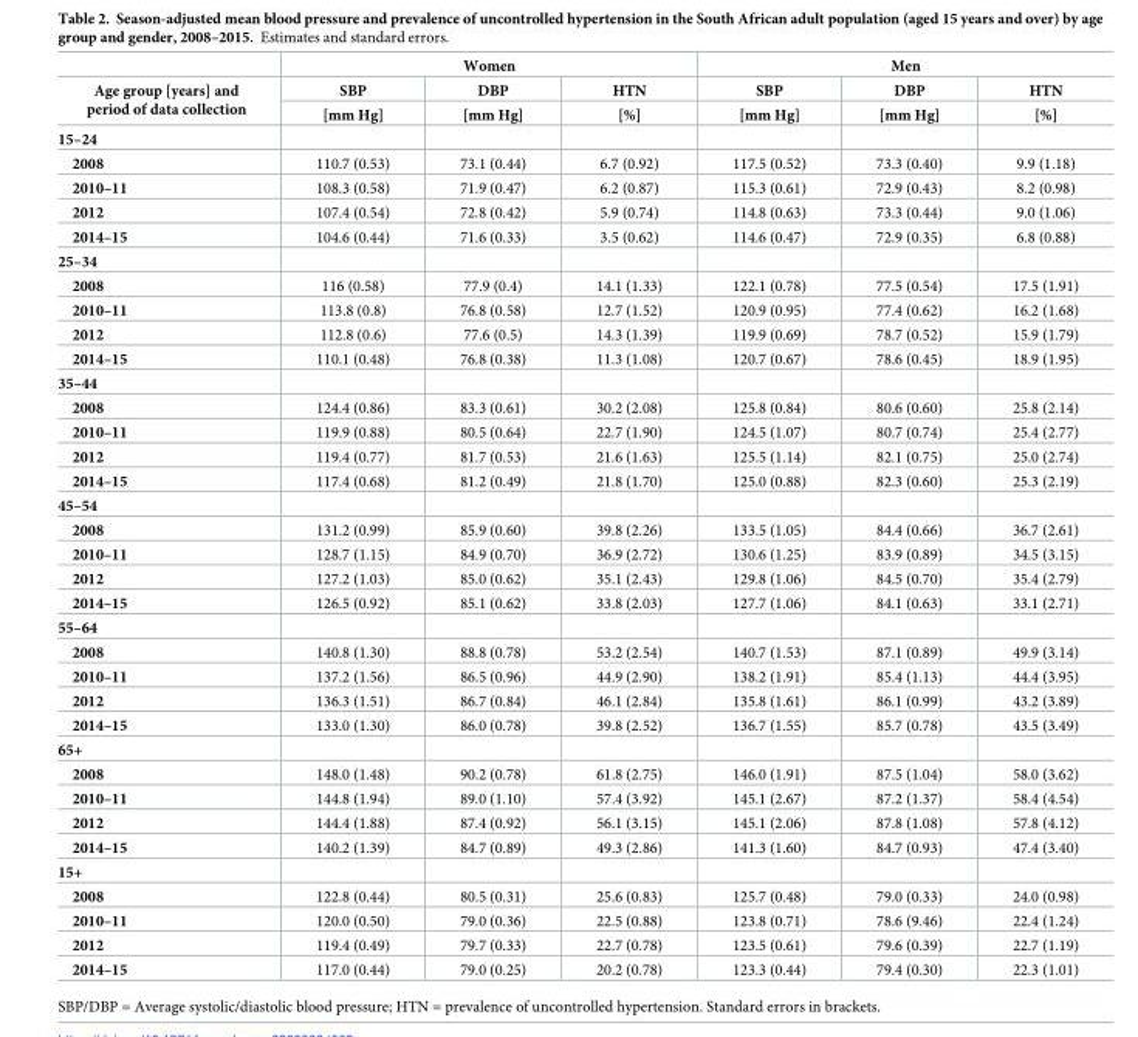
<table><thead><tr><td rowspan="3">Age group [years] and period of data collection</td><td colspan="3">Women</td><td colspan="3">Men</td></tr><tr><td rowspan="2">SBP [mm Hg]</td><td rowspan="2">DBP [mm Hg]</td><td rowspan="2">HTN [%]</td><td rowspan="2">SBP [mm Hg]</td><td rowspan="2">DBP [mm Hg]</td><td rowspan="2">HTN [%]</td></tr><tr></tr></thead><tbody><tr><td colspan="7">15–24</td></tr><tr><td>2008</td><td>110.7 (0.53)</td><td>73.1 (0.44)</td><td>6.7 (0.92)</td><td>117.5 (0.52)</td><td>73.3 (0.40)</td><td>9.9 (1.18)</td></tr><tr><td>2010–11</td><td>108.3 (0.58)</td><td>71.9 (0.47)</td><td>6.2 (0.87)</td><td>115.3 (0.61)</td><td>72.9 (0.43)</td><td>8.2 (0.98)</td></tr><tr><td>2012</td><td>107.4 (0.54)</td><td>72.8 (0.42)</td><td>5.9 (0.74)</td><td>114.8 (0.63)</td><td>73.3 (0.44)</td><td>9.0 (1.06)</td></tr><tr><td>2014–15</td><td>104.6 (0.44)</td><td>71.6 (0.33)</td><td>3.5 (0.62)</td><td>114.6 (0.47)</td><td>72.9 (0.35)</td><td>6.8 (0.88)</td></tr><tr><td colspan="7">25–34</td></tr><tr><td>2008</td><td>116 (0.58)</td><td>77.9 (0.4)</td><td>14.1 (1.33)</td><td>122.1 (0.78)</td><td>77.5 (0.54)</td><td>17.5 (1.91)</td></tr><tr><td>2010–11</td><td>113.8 (0.8)</td><td>76.8 (0.58)</td><td>12.7 (1.52)</td><td>120.9 (0.95)</td><td>77.4 (0.62)</td><td>16.2 (1.68)</td></tr><tr><td>2012</td><td>112.8 (0.6)</td><td>77.6 (0.5)</td><td>14.3 (1.39)</td><td>119.9 (0.69)</td><td>78.7 (0.52)</td><td>15.9 (1.79)</td></tr><tr><td>2014–15</td><td>110.1 (0.48)</td><td>76.8 (0.38)</td><td>11.3 (1.08)</td><td>120.7 (0.67)</td><td>78.6 (0.45)</td><td>18.9 (1.95)</td></tr><tr><td colspan="7">35–44</td></tr><tr><td>2008</td><td>124.4 (0.86)</td><td>83.3 (0.61)</td><td>30.2 (2.08)</td><td>125.8 (0.84)</td><td>80.6 (0.60)</td><td>25.8 (2.14)</td></tr><tr><td>2010–11</td><td>119.9 (0.88)</td><td>80.5 (0.64)</td><td>22.7 (1.90)</td><td>124.5 (1.07)</td><td>80.7 (0.74)</td><td>25.4 (2.77)</td></tr><tr><td>2012</td><td>119.4 (0.77)</td><td>81.7 (0.53)</td><td>21.6 (1.63)</td><td>125.5 (1.14)</td><td>82.1 (0.75)</td><td>25.0 (2.74)</td></tr><tr><td>2014–15</td><td>117.4 (0.68)</td><td>81.2 (0.49)</td><td>21.8 (1.70)</td><td>125.0 (0.88)</td><td>82.3 (0.60)</td><td>25.3 (2.19)</td></tr><tr><td colspan="7">45–54</td></tr><tr><td>2008</td><td>131.2 (0.99)</td><td>85.9 (0.60)</td><td>39.8 (2.26)</td><td>133.5 (1.05)</td><td>84.4 (0.66)</td><td>36.7 (2.61)</td></tr><tr><td>2010–11</td><td>128.7 (1.15)</td><td>84.9 (0.70)</td><td>36.9 (2.72)</td><td>130.6 (1.25)</td><td>83.9 (0.89)</td><td>34.5 (3.15)</td></tr><tr><td>2012</td><td>127.2 (1.03)</td><td>85.0 (0.62)</td><td>35.1 (2.43)</td><td>129.8 (1.06)</td><td>84.5 (0.70)</td><td>35.4 (2.79)</td></tr><tr><td>2014–15</td><td>126.5 (0.92)</td><td>85.1 (0.62)</td><td>33.8 (2.03)</td><td>127.7 (1.06)</td><td>84.1 (0.63)</td><td>33.1 (2.71)</td></tr><tr><td colspan="7">55–64</td></tr><tr><td>2008</td><td>140.8 (1.30)</td><td>88.8 (0.78)</td><td>53.2 (2.54)</td><td>140.7 (1.53)</td><td>87.1 (0.89)</td><td>49.9 (3.14)</td></tr><tr><td>2010–11</td><td>137.2 (1.56)</td><td>86.5 (0.96)</td><td>44.9 (2.90)</td><td>138.2 (1.91)</td><td>85.4 (1.13)</td><td>44.4 (3.95)</td></tr><tr><td>2012</td><td>136.3 (1.51)</td><td>86.7 (0.84)</td><td>46.1 (2.84)</td><td>135.8 (1.61)</td><td>86.1 (0.99)</td><td>43.2 (3.89)</td></tr><tr><td>2014–15</td><td>133.0 (1.30)</td><td>86.0 (0.78)</td><td>39.8 (2.52)</td><td>136.7 (1.55)</td><td>85.7 (0.78)</td><td>43.5 (3.49)</td></tr><tr><td colspan="7">65+</td></tr><tr><td>2008</td><td>148.0 (1.48)</td><td>90.2 (0.78)</td><td>61.8 (2.75)</td><td>146.0 (1.91)</td><td>87.5 (1.04)</td><td>58.0 (3.62)</td></tr><tr><td>2010–11</td><td>144.8 (1.94)</td><td>89.0 (1.10)</td><td>57.4 (3.92)</td><td>145.1 (2.67)</td><td>87.2 (1.37)</td><td>58.4 (4.54)</td></tr><tr><td>2012</td><td>144.4 (1.88)</td><td>87.4 (0.92)</td><td>56.1 (3.15)</td><td>145.1 (2.06)</td><td>87.8 (1.08)</td><td>57.8 (4.12)</td></tr><tr><td>2014–15</td><td>140.2 (1.39)</td><td>84.7 (0.89)</td><td>49.3 (2.86)</td><td>141.3 (1.60)</td><td>84.7 (0.93)</td><td>47.4 (3.40)</td></tr><tr><td colspan="7">15+</td></tr><tr><td>2008</td><td>122.8 (0.44)</td><td>80.5 (0.31)</td><td>25.6 (0.83)</td><td>125.7 (0.48)</td><td>79.0 (0.33)</td><td>24.0 (0.98)</td></tr><tr><td>2010–11</td><td>120.0 (0.50)</td><td>79.0 (0.36)</td><td>22.5 (0.88)</td><td>123.8 (0.71)</td><td>78.6 (9.46)</td><td>22.4 (1.24)</td></tr><tr><td>2012</td><td>119.4 (0.49)</td><td>79.7 (0.33)</td><td>22.7 (0.78)</td><td>123.5 (0.61)</td><td>79.6 (0.39)</td><td>22.7 (1.19)</td></tr><tr><td>2014–15</td><td>117.0 (0.44)</td><td>79.0 (0.25)</td><td>20.2 (0.78)</td><td>123.3 (0.44)</td><td>79.4 (0.30)</td><td>22.3 (1.01)</td></tr></tbody></table>